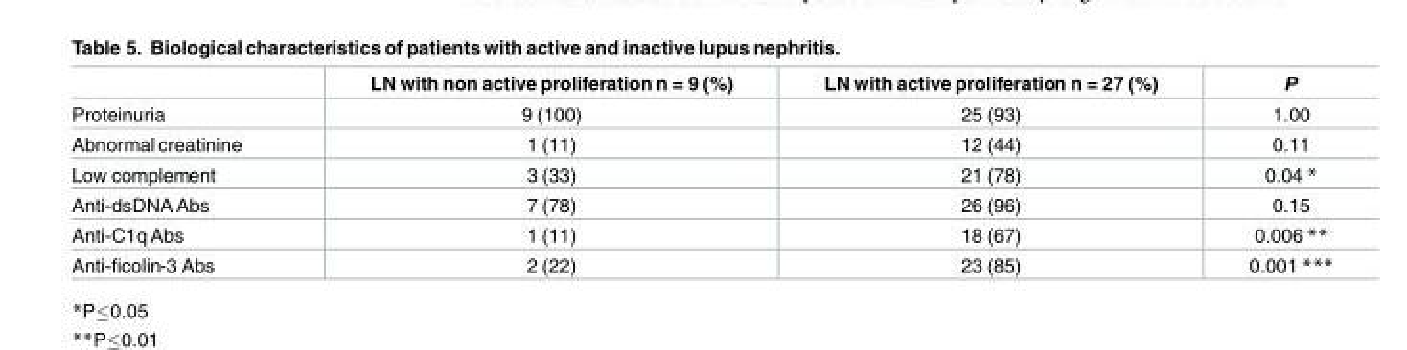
<table><thead><tr><td></td><td>LN with non active proliferation n = 9 (%)</td><td>LN with active proliferation n = 27 (%)</td><td>P</td></tr></thead><tbody><tr><td>Proteinuria</td><td>9 (100)</td><td>25 (93)</td><td>1.00</td></tr><tr><td>Abnormal creatinine</td><td>1 (11)</td><td>12 (44)</td><td>0.11</td></tr><tr><td>Low complement</td><td>3 (33)</td><td>21 (78)</td><td>0.04 *</td></tr><tr><td>Anti-dsDNA Abs</td><td>7 (78)</td><td>26 (96)</td><td>0.15</td></tr><tr><td>Anti-C1q Abs</td><td>1 (11)</td><td>18 (67)</td><td>0.006 **</td></tr><tr><td>Anti-ficolin-3 Abs</td><td>2 (22)</td><td>23 (85)</td><td>0.001 ***</td></tr></tbody></table>